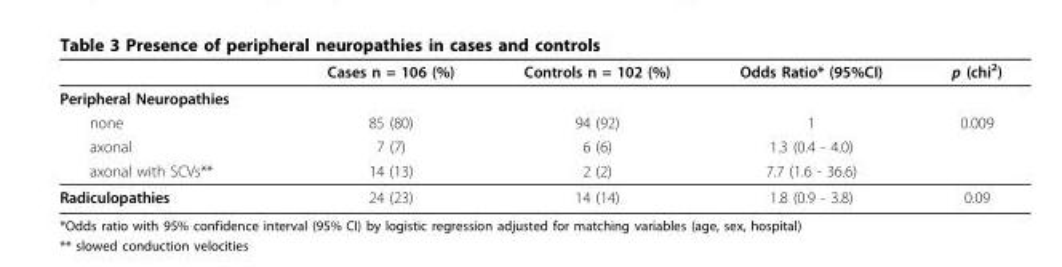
<table><thead><tr><td></td><td>Cases n = 106 (%)</td><td>Controls n = 102 (%)</td><td>Odds Ratio* (95%CI)</td><td>p (chi<sup>2</sup>)</td></tr></thead><tbody><tr><td colspan="5">Peripheral Neuropathies</td></tr><tr><td>none</td><td>85 (80)</td><td>94 (92)</td><td>1</td><td>0.009</td></tr><tr><td>axonal</td><td>7 (7)</td><td>6 (6)</td><td>1.3 (0.4 - 4.0)</td><td></td></tr><tr><td>axonal with SCVs**</td><td>14 (13)</td><td>2 (2)</td><td>7.7 (1.6 - 36.6)</td><td></td></tr><tr><td>Radiculopathies</td><td>24 (23)</td><td>14 (14)</td><td>1.8 (0.9 - 3.8)</td><td>0.09</td></tr></tbody></table>